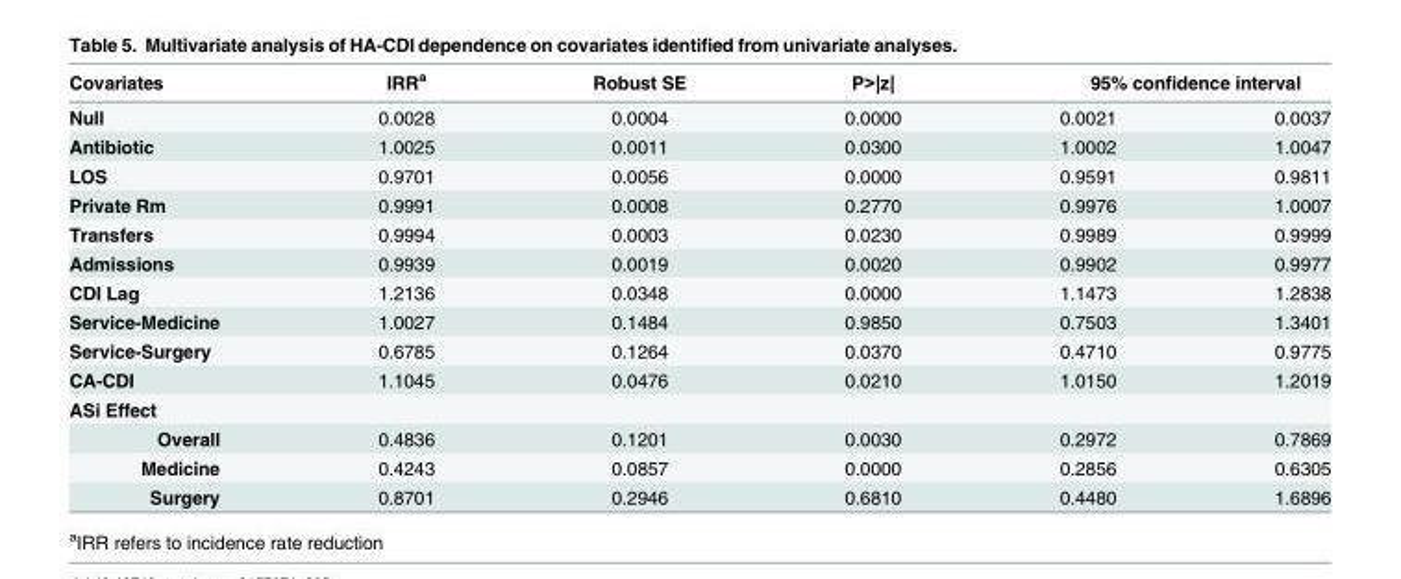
<table><thead><tr><td rowspan="2">Covariates Null</td><td rowspan="2">IRR<sup>a</sup> 0.0028</td><td rowspan="2">Robust SE 0.0004</td><td rowspan="2">P&gt;|z| 0.0000</td><td colspan="2">95% confidence interval</td></tr><tr><td>0.0021</td><td>0.0037</td></tr></thead><tbody><tr><td>Antibiotic</td><td>1.0025</td><td>0.0011</td><td>0.0300</td><td>1.0002</td><td>1.0047</td></tr><tr><td>LOS</td><td>0.9701</td><td>0.0056</td><td>0.0000</td><td>0.9591</td><td>0.9811</td></tr><tr><td>Private Rm</td><td>0.9991</td><td>0.0008</td><td>0.2770</td><td>0.9976</td><td>1.0007</td></tr><tr><td>Transfers</td><td>0.9994</td><td>0.0003</td><td>0.0230</td><td>0.9989</td><td>0.9999</td></tr><tr><td>Admissions</td><td>0.9939</td><td>0.0019</td><td>0.0020</td><td>0.9902</td><td>0.9977</td></tr><tr><td>CDI Lag</td><td>1.2136</td><td>0.0348</td><td>0.0000</td><td>1.1473</td><td>1.2838</td></tr><tr><td>Service-Medicine</td><td>1.0027</td><td>0.1484</td><td>0.9850</td><td>0.7503</td><td>1.3401</td></tr><tr><td>Service-Surgery</td><td>0.6785</td><td>0.1264</td><td>0.0370</td><td>0.4710</td><td>0.9775</td></tr><tr><td>CA-CDI</td><td>1.1045</td><td>0.0476</td><td>0.0210</td><td>1.0150</td><td>1.2019</td></tr><tr><td colspan="6">ASi Effect</td></tr><tr><td>Overall</td><td>0.4836</td><td>0.1201</td><td>0.0030</td><td>0.2972</td><td>0.7869</td></tr><tr><td>Medicine</td><td>0.4243</td><td>0.0857</td><td>0.0000</td><td>0.2856</td><td>0.6305</td></tr><tr><td>Surgery</td><td>0.8701</td><td>0.2946</td><td>0.6810</td><td>0.4480</td><td>1.6896</td></tr></tbody></table>